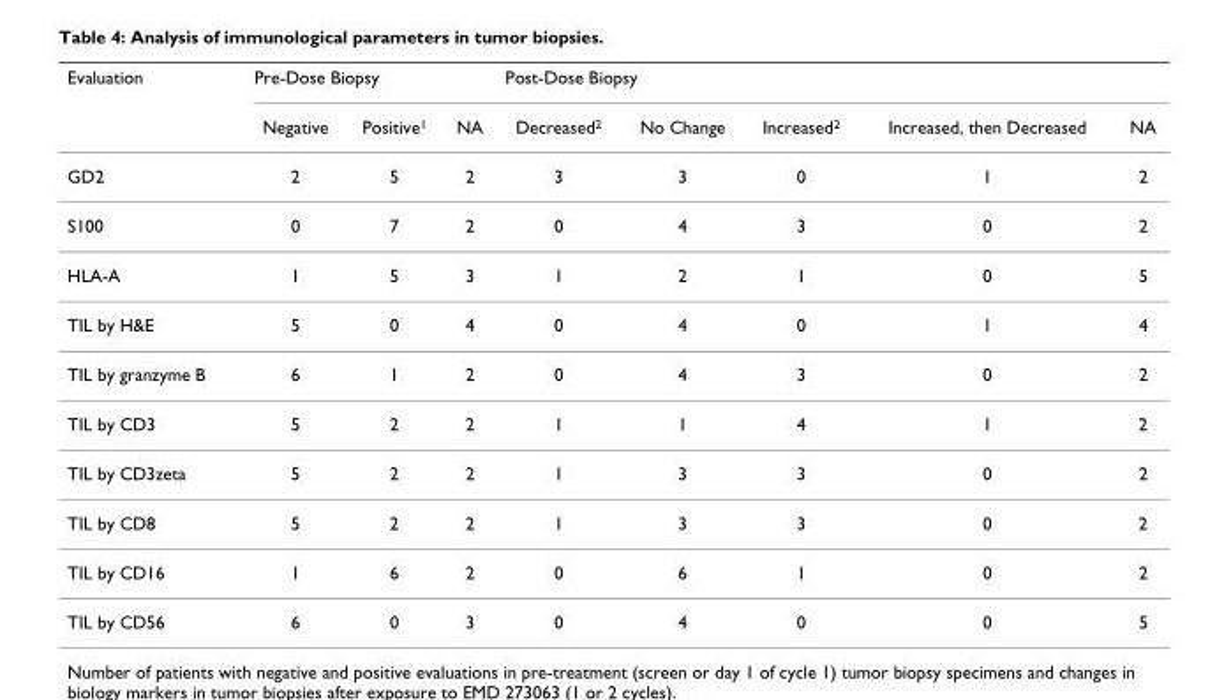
<table><thead><tr><td rowspan="2">Evaluation</td><td colspan="3">Pre-Dose Biopsy</td><td colspan="2">Post-Dose Biopsy</td><td rowspan="2">Increased<sup>2</sup></td><td rowspan="2">Increased, then Decreased</td><td rowspan="2">NA</td></tr><tr><td>Negative</td><td>Positive<sup>1</sup></td><td>NA</td><td>Decreased<sup>2</sup></td><td>No Change</td></tr></thead><tbody><tr><td>GD2</td><td>2</td><td>5</td><td>2</td><td>3</td><td>3</td><td>0</td><td>1</td><td>2</td></tr><tr><td>S100</td><td>0</td><td>7</td><td>2</td><td>0</td><td>4</td><td>3</td><td>0</td><td>2</td></tr><tr><td>HLA-A</td><td>1</td><td>5</td><td>3</td><td>1</td><td>2</td><td>1</td><td>0</td><td>5</td></tr><tr><td>TIL by H&amp;E</td><td>5</td><td>0</td><td>4</td><td>0</td><td>4</td><td>0</td><td>1</td><td>4</td></tr><tr><td>TIL by granzyme B</td><td>6</td><td>1</td><td>2</td><td>0</td><td>4</td><td>3</td><td>0</td><td>2</td></tr><tr><td>TIL by CD3</td><td>5</td><td>2</td><td>2</td><td>1</td><td>1</td><td>4</td><td>1</td><td>2</td></tr><tr><td>TIL by CD3zeta</td><td>5</td><td>2</td><td>2</td><td>1</td><td>3</td><td>3</td><td>0</td><td>2</td></tr><tr><td>TIL by CD8</td><td>5</td><td>2</td><td>2</td><td>1</td><td>3</td><td>3</td><td>0</td><td>2</td></tr><tr><td>TIL by CD16</td><td>1</td><td>6</td><td>2</td><td>0</td><td>6</td><td>1</td><td>0</td><td>2</td></tr><tr><td>TIL by CD56</td><td>6</td><td>0</td><td>3</td><td>0</td><td>4</td><td>0</td><td>0</td><td>5</td></tr></tbody></table>